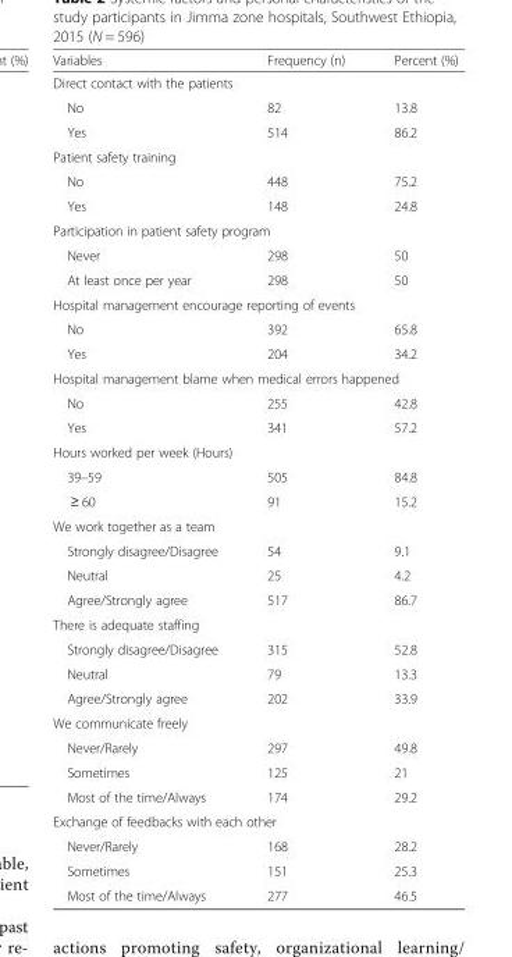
<table><thead><tr><td>Variables</td><td>Frequency (n)</td><td>Percent (%)</td></tr></thead><tbody><tr><td colspan="3">Direct contact with the patients</td></tr><tr><td>No</td><td>82</td><td>13.8</td></tr><tr><td>Yes</td><td>514</td><td>86.2</td></tr><tr><td colspan="3">Patient safety training</td></tr><tr><td>No</td><td>448</td><td>75.2</td></tr><tr><td>Yes</td><td>148</td><td>24.8</td></tr><tr><td colspan="3">Participation in patient safety program</td></tr><tr><td>Never</td><td>298</td><td>50</td></tr><tr><td>At least once per year</td><td>298</td><td>50</td></tr><tr><td colspan="3">Hospital management encourage reporting of events</td></tr><tr><td>No</td><td>392</td><td>65.8</td></tr><tr><td>Yes</td><td>204</td><td>34.2</td></tr><tr><td colspan="3">Hospital management blame when medical errors happened</td></tr><tr><td>No</td><td>255</td><td>42.8</td></tr><tr><td>Yes</td><td>341</td><td>57.2</td></tr><tr><td colspan="3">Hours worked per week (Hours)</td></tr><tr><td>39–59</td><td>505</td><td>84.8</td></tr><tr><td>≥ 60</td><td>91</td><td>15.2</td></tr><tr><td colspan="3">We work together as a team</td></tr><tr><td>Strongly disagree/Disagree</td><td>54</td><td>9.1</td></tr><tr><td>Neutral</td><td>25</td><td>4.2</td></tr><tr><td>Agree/Strongly agree</td><td>517</td><td>86.7</td></tr><tr><td colspan="3">There is adequate staffing</td></tr><tr><td>Strongly disagree/Disagree</td><td>315</td><td>52.8</td></tr><tr><td>Neutral</td><td>79</td><td>13.3</td></tr><tr><td>Agree/Strongly agree</td><td>202</td><td>33.9</td></tr><tr><td colspan="3">We communicate freely</td></tr><tr><td>Never/Rarely</td><td>297</td><td>49.8</td></tr><tr><td>Sometimes</td><td>125</td><td>21</td></tr><tr><td>Most of the time/Always</td><td>174</td><td>29.2</td></tr><tr><td colspan="3">Exchange of feedbacks with each other</td></tr><tr><td>Never/Rarely</td><td>168</td><td>28.2</td></tr><tr><td>Sometimes</td><td>151</td><td>25.3</td></tr><tr><td>Most of the time/Always</td><td>277</td><td>46.5</td></tr></tbody></table>